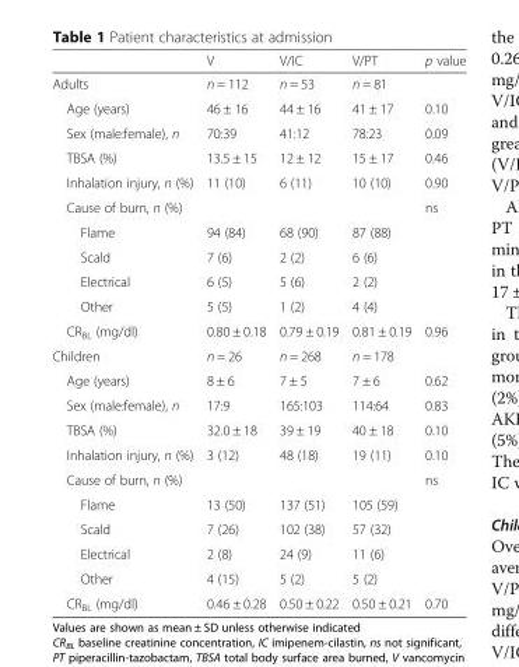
<table><thead><tr><td></td><td>V</td><td>V/IC</td><td>V/PT</td><td>p value</td></tr></thead><tbody><tr><td>Adults</td><td>n = 112</td><td>n = 53</td><td>n = 81</td><td></td></tr><tr><td>Age (years)</td><td>46 ± 16</td><td>44 ± 16</td><td>41 ± 17</td><td>0.10</td></tr><tr><td>Sex (male:female), n</td><td>70:39</td><td>41:12</td><td>78:23</td><td>0.09</td></tr><tr><td>TBSA (%)</td><td>13.5 ± 15</td><td>12 ± 12</td><td>15 ± 17</td><td>0.46</td></tr><tr><td>Inhalation injury, n (%)</td><td>11 (10)</td><td>6 (11)</td><td>10 (10)</td><td>0.90</td></tr><tr><td>Cause of burn, n (%)</td><td></td><td></td><td></td><td>ns</td></tr><tr><td>Flame</td><td>94 (84)</td><td>68 (90)</td><td>87 (88)</td><td rowspan="4"></td></tr><tr><td>Scald</td><td>7 (6)</td><td>2 (2)</td><td>6 (6)</td></tr><tr><td>Electrical</td><td>6 (5)</td><td>5 (6)</td><td>2 (2)</td></tr><tr><td>Other</td><td>5 (5)</td><td>1 (2)</td><td>4 (4)</td></tr><tr><td>CR<sub>BL</sub> (mg/dl)</td><td>0.80 ± 0.18</td><td>0.79 ± 0.19</td><td>0.81 ± 0.19</td><td>0.96</td></tr><tr><td>Children</td><td>n = 26</td><td>n = 268</td><td>n = 178</td><td></td></tr><tr><td>Age (years)</td><td>8 ± 6</td><td>7 ± 5</td><td>7 ± 6</td><td>0.62</td></tr><tr><td>Sex (male:female), n</td><td>17:9</td><td>165:103</td><td>114:64</td><td>0.83</td></tr><tr><td>TBSA (%)</td><td>32.0 ± 18</td><td>39 ± 19</td><td>40 ± 18</td><td>0.10</td></tr><tr><td>Inhalation injury, n (%)</td><td>3 (12)</td><td>48 (18)</td><td>19 (11)</td><td>0.10</td></tr><tr><td>Cause of burn, n (%)</td><td></td><td></td><td></td><td>ns</td></tr><tr><td>Flame</td><td>13 (50)</td><td>137 (51)</td><td>105 (59)</td><td rowspan="4"></td></tr><tr><td>Scald</td><td>7 (26)</td><td>102 (38)</td><td>57 (32)</td></tr><tr><td>Electrical</td><td>2 (8)</td><td>24 (9)</td><td>11 (6)</td></tr><tr><td>Other</td><td>4 (15)</td><td>5 (2)</td><td>5 (2)</td></tr><tr><td>CR<sub>BL</sub> (mg/dl)</td><td>0.46 ± 0.28</td><td>0.50 ± 0.22</td><td>0.50 ± 0.21</td><td>0.70</td></tr></tbody></table>